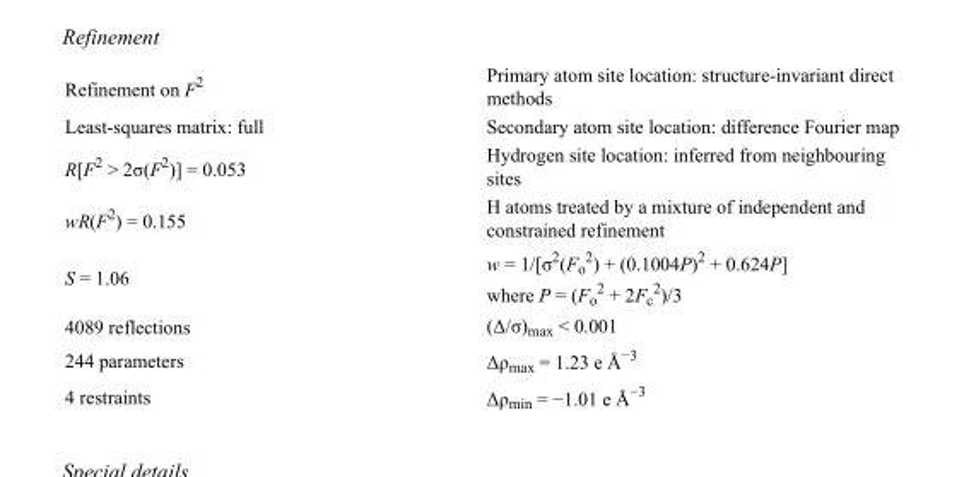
<table><tbody><tr><td>Refinement on F<sup>2</sup></td><td>Primary atom site location: structure-invariant direct methods</td></tr><tr><td>Least-squares matrix: full</td><td>Secondary atom site location: difference Fourier map</td></tr><tr><td>R[F<sup>2</sup> &gt; 2σ(F<sup>2</sup>)] = 0.053</td><td>Hydrogen site location: inferred from neighbouring sites</td></tr><tr><td>wR(F<sup>2</sup>) = 0.155</td><td>H atoms treated by a mixture of independent and constrained refinement</td></tr><tr><td>S = 1.06</td><td>w = 1/[σ<sup>2</sup>(F<sub>o</sub> <sup>2</sup>) + (0.1004P)<sup>2</sup> + 0.624P] where P = (F<sub>o</sub> <sup>2</sup> + 2F<sub>c</sub> <sup>2</sup>)/3</td></tr><tr><td>4089 reflections</td><td>(Δ/σ)<sub>max</sub> &lt; 0.001</td></tr><tr><td>244 parameters</td><td>Δρ<sub>max</sub> = 1.23 e Å<sup>−3</sup></td></tr><tr><td>4 restraints</td><td>Δρ<sub>min</sub> = −1.01 e Å<sup>−3</sup></td></tr></tbody></table>